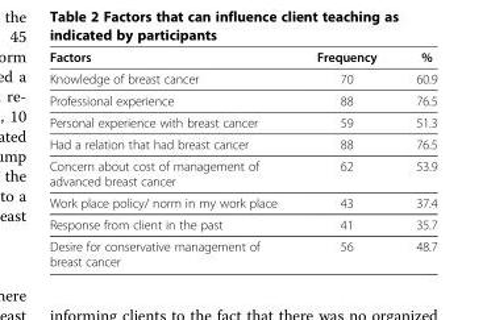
<table><thead><tr><td>Factors</td><td>Frequency</td><td>%</td></tr></thead><tbody><tr><td>Knowledge of breast cancer</td><td>70</td><td>60.9</td></tr><tr><td>Professional experience</td><td>88</td><td>76.5</td></tr><tr><td>Personal experience with breast cancer</td><td>59</td><td>51.3</td></tr><tr><td>Had a relation that had breast cancer</td><td>88</td><td>76.5</td></tr><tr><td>Concern about cost of management of advanced breast cancer</td><td>62</td><td>53.9</td></tr><tr><td>Work place policy/ norm in my work place</td><td>43</td><td>37.4</td></tr><tr><td>Response from client in the past</td><td>41</td><td>35.7</td></tr><tr><td>Desire for conservative management of breast cancer</td><td>56</td><td>48.7</td></tr></tbody></table>